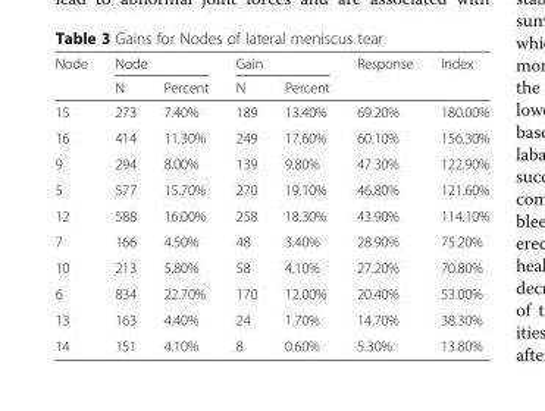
<table><thead><tr><td rowspan="2">Node</td><td colspan="2">Node</td><td colspan="2">Gain</td><td rowspan="2">Response</td><td rowspan="2">Index</td></tr><tr><td>N</td><td>Percent</td><td>N</td><td>Percent</td></tr></thead><tbody><tr><td>15</td><td>273</td><td>7.40%</td><td>189</td><td>13.40%</td><td>69.20%</td><td>180.00%</td></tr><tr><td>16</td><td>414</td><td>11.30%</td><td>249</td><td>17.60%</td><td>60.10%</td><td>156.30%</td></tr><tr><td>9</td><td>294</td><td>8.00%</td><td>139</td><td>9.80%</td><td>47.30%</td><td>122.90%</td></tr><tr><td>5</td><td>577</td><td>15.70%</td><td>270</td><td>19.10%</td><td>46.80%</td><td>121.60%</td></tr><tr><td>12</td><td>588</td><td>16.00%</td><td>258</td><td>18.30%</td><td>43.90%</td><td>114.10%</td></tr><tr><td>7</td><td>166</td><td>4.50%</td><td>48</td><td>3.40%</td><td>28.90%</td><td>75.20%</td></tr><tr><td>10</td><td>213</td><td>5.80%</td><td>58</td><td>4.10%</td><td>27.20%</td><td>70.80%</td></tr><tr><td>6</td><td>834</td><td>22.70%</td><td>170</td><td>12.00%</td><td>20.40%</td><td>53.00%</td></tr><tr><td>13</td><td>163</td><td>4.40%</td><td>24</td><td>1.70%</td><td>14.70%</td><td>38.30%</td></tr><tr><td>14</td><td>151</td><td>4.10%</td><td>8</td><td>0.60%</td><td>5.30%</td><td>13.80%</td></tr></tbody></table>